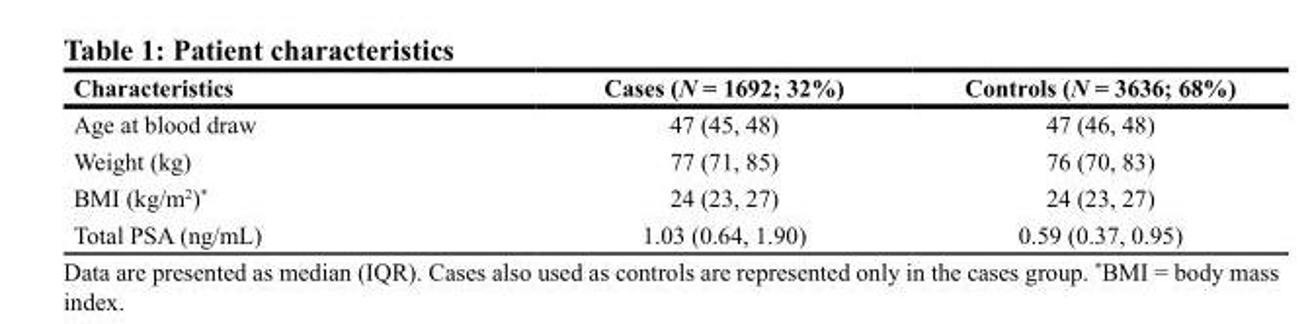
<table><thead><tr><td>Characteristics</td><td>Cases (N = 1692; 32%)</td><td>Controls (N = 3636; 68%)</td></tr></thead><tbody><tr><td>Age at blood draw</td><td>47 (45, 48)</td><td>47 (46, 48)</td></tr><tr><td>Weight (kg)</td><td>77 (71, 85)</td><td>76 (70, 83)</td></tr><tr><td>BMI (kg/m<sup>2</sup>)*</td><td>24 (23, 27)</td><td>24 (23, 27)</td></tr><tr><td>Total PSA (ng/mL)</td><td>1.03 (0.64, 1.90)</td><td>0.59 (0.37, 0.95)</td></tr></tbody></table>